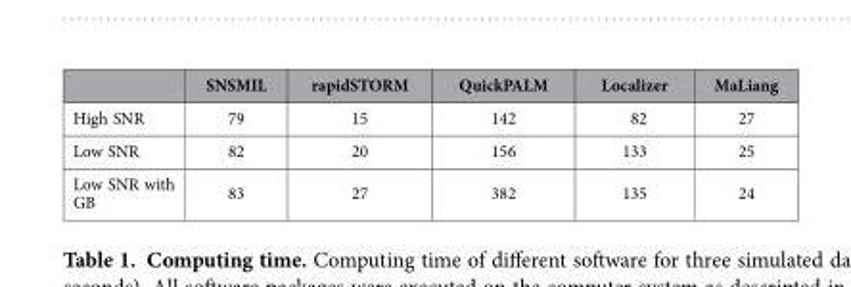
<table><thead><tr><td></td><td>SNSMIL</td><td>rapidSTORM</td><td>QuickPALM</td><td>Localizer</td><td>MaLiang</td></tr></thead><tbody><tr><td>High SNR</td><td>79</td><td>15</td><td>142</td><td>82</td><td>27</td></tr><tr><td>Low SNR</td><td>82</td><td>20</td><td>156</td><td>133</td><td>25</td></tr><tr><td>Low SNR with GB</td><td>83</td><td>27</td><td>382</td><td>135</td><td>24</td></tr></tbody></table>